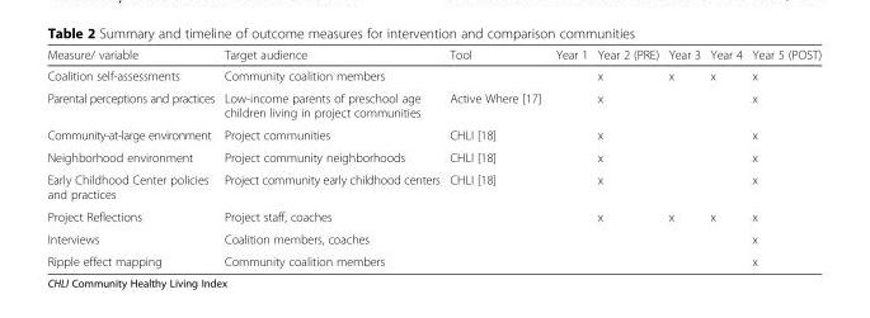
<table><thead><tr><td>Measure/ variable</td><td>Target audience</td><td>Tool</td><td>Year 1</td><td>Year 2 (PRE)</td><td>Year 3</td><td>Year 4</td><td>Year 5 (POST)</td></tr></thead><tbody><tr><td>Coalition self-assessments</td><td>Community coalition members</td><td></td><td></td><td>x</td><td>x</td><td>x</td><td>x</td></tr><tr><td>Parental perceptions and practices</td><td>Low-income parents of preschool age children living in project communities</td><td>Active Where [17]</td><td></td><td>x</td><td></td><td></td><td>x</td></tr><tr><td>Community-at-large environment</td><td>Project communities</td><td>CHLI [18]</td><td></td><td>x</td><td></td><td></td><td>x</td></tr><tr><td>Neighborhood environment</td><td>Project community neighborhoods</td><td>CHLI [18]</td><td></td><td>x</td><td></td><td></td><td>x</td></tr><tr><td>Early Childhood Center policies and practices</td><td>Project community early childhood centers</td><td>CHLI [18]</td><td></td><td>x</td><td></td><td></td><td>x</td></tr><tr><td>Project Reflections</td><td>Project staff, coaches</td><td></td><td></td><td>x</td><td>x</td><td>x</td><td>x</td></tr><tr><td>Interviews</td><td>Coalition members, coaches</td><td></td><td></td><td></td><td></td><td></td><td>x</td></tr><tr><td>Ripple effect mapping</td><td>Community coalition members</td><td></td><td></td><td></td><td></td><td></td><td>x</td></tr></tbody></table>